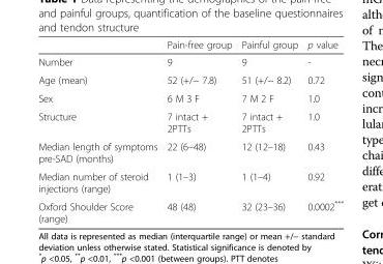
<table><thead><tr><td></td><td>Pain-free group</td><td>Painful group</td><td>p value</td></tr></thead><tbody><tr><td>Number</td><td>9</td><td>9</td><td>-</td></tr><tr><td>Age (mean)</td><td>52 (+/− 7.8)</td><td>51 (+/− 8.2)</td><td>0.72</td></tr><tr><td>Sex</td><td>6 M 3 F</td><td>7 M 2 F</td><td>1.0</td></tr><tr><td>Structure</td><td>7 intact + 2PTTs</td><td>7 intact + 2PTTs</td><td>1.0</td></tr><tr><td>Median length of symptoms pre-SAD (months)</td><td>22 (6–48)</td><td>12 (12–18)</td><td>0.43</td></tr><tr><td>Median number of steroid injections (range)</td><td>1 (1–3)</td><td>1 (1–4)</td><td>0.92</td></tr><tr><td>Oxford Shoulder Score (range)</td><td>48 (48)</td><td>32 (23–36)</td><td>0.0002***</td></tr></tbody></table>